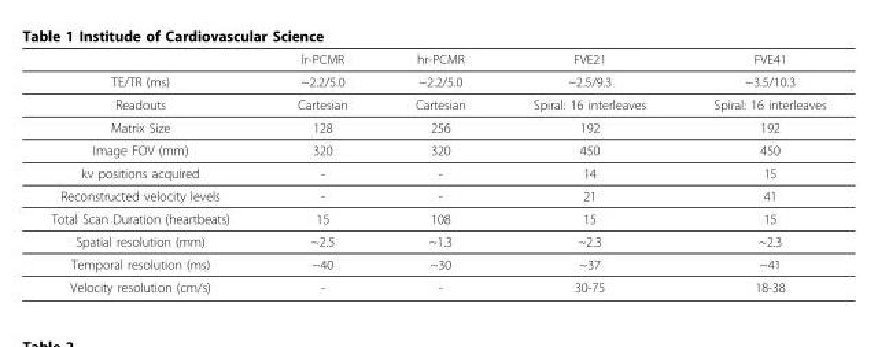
<table><thead><tr><td></td><td>lr-PCMR</td><td>hr-PCMR</td><td>FVE21</td><td>FVE41</td></tr></thead><tbody><tr><td>TE/TR (ms)</td><td>~2.2/5.0</td><td>~2.2/5.0</td><td>~2.5/9.3</td><td>~3.5/10.3</td></tr><tr><td>Readouts</td><td>Cartesian</td><td>Cartesian</td><td>Spiral: 16 interleaves</td><td>Spiral: 16 interleaves</td></tr><tr><td>Matrix Size</td><td>128</td><td>256</td><td>192</td><td>192</td></tr><tr><td>Image FOV (mm)</td><td>320</td><td>320</td><td>450</td><td>450</td></tr><tr><td>kv positions acquired</td><td>-</td><td>-</td><td>14</td><td>15</td></tr><tr><td>Reconstructed velocity levels</td><td>-</td><td>-</td><td>21</td><td>41</td></tr><tr><td>Total Scan Duration (heartbeats)</td><td>15</td><td>108</td><td>15</td><td>15</td></tr><tr><td>Spatial resolution (mm)</td><td>~2.5</td><td>~1.3</td><td>~2.3</td><td>~2.3</td></tr><tr><td>Temporal resolution (ms)</td><td>~40</td><td>~30</td><td>~37</td><td>~41</td></tr><tr><td>Velocity resolution (cm/s)</td><td>-</td><td>-</td><td>30-75</td><td>18-38</td></tr></tbody></table>